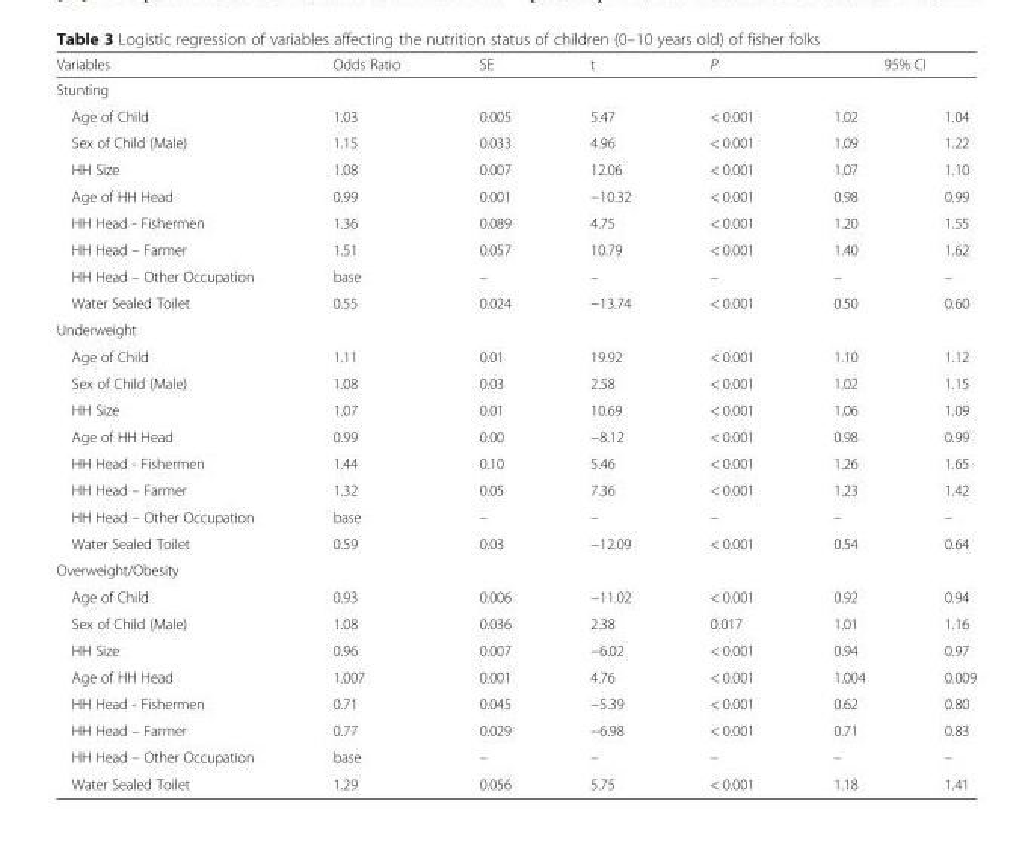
<table><thead><tr><td>Variables</td><td>Odds Ratio</td><td>SE</td><td>t</td><td>P</td><td colspan="2">95% CI</td></tr><tr><td colspan="7">Stunting</td></tr><tr><td>Age of Child</td><td>1.03</td><td>0.005</td><td>5.47</td><td>&lt; 0.001</td><td>1.02</td><td>1.04</td></tr></thead><tbody><tr><td>Sex of Child (Male)</td><td>1.15</td><td>0.033</td><td>4.96</td><td>&lt; 0.001</td><td>1.09</td><td>1.22</td></tr><tr><td>HH Size</td><td>1.08</td><td>0.007</td><td>12.06</td><td>&lt; 0.001</td><td>1.07</td><td>1.10</td></tr><tr><td>Age of HH Head</td><td>0.99</td><td>0.001</td><td>−10.32</td><td>&lt; 0.001</td><td>0.98</td><td>0.99</td></tr><tr><td>HH Head - Fishermen</td><td>1.36</td><td>0.089</td><td>4.75</td><td>&lt; 0.001</td><td>1.20</td><td>1.55</td></tr><tr><td>HH Head – Farmer</td><td>1.51</td><td>0.057</td><td>10.79</td><td>&lt; 0.001</td><td>1.40</td><td>1.62</td></tr><tr><td>HH Head – Other Occupation</td><td>base</td><td>–</td><td>–</td><td>–</td><td>–</td><td>–</td></tr><tr><td>Water Sealed Toilet</td><td>0.55</td><td>0.024</td><td>−13.74</td><td>&lt; 0.001</td><td>0.50</td><td>0.60</td></tr><tr><td colspan="7">Underweight</td></tr><tr><td>Age of Child</td><td>1.11</td><td>0.01</td><td>19.92</td><td>&lt; 0.001</td><td>1.10</td><td>1.12</td></tr><tr><td>Sex of Child (Male)</td><td>1.08</td><td>0.03</td><td>2.58</td><td>&lt; 0.001</td><td>1.02</td><td>1.15</td></tr><tr><td>HH Size</td><td>1.07</td><td>0.01</td><td>10.69</td><td>&lt; 0.001</td><td>1.06</td><td>1.09</td></tr><tr><td>Age of HH Head</td><td>0.99</td><td>0.00</td><td>−8.12</td><td>&lt; 0.001</td><td>0.98</td><td>0.99</td></tr><tr><td>HH Head - Fishermen</td><td>1.44</td><td>0.10</td><td>5.46</td><td>&lt; 0.001</td><td>1.26</td><td>1.65</td></tr><tr><td>HH Head – Farmer</td><td>1.32</td><td>0.05</td><td>7.36</td><td>&lt; 0.001</td><td>1.23</td><td>1.42</td></tr><tr><td>HH Head – Other Occupation</td><td>base</td><td>–</td><td>–</td><td>–</td><td>–</td><td>–</td></tr><tr><td>Water Sealed Toilet</td><td>0.59</td><td>0.03</td><td>−12.09</td><td>&lt; 0.001</td><td>0.54</td><td>0.64</td></tr><tr><td colspan="7">Overweight/Obesity</td></tr><tr><td>Age of Child</td><td>0.93</td><td>0.006</td><td>−11.02</td><td>&lt; 0.001</td><td>0.92</td><td>0.94</td></tr><tr><td>Sex of Child (Male)</td><td>1.08</td><td>0.036</td><td>2.38</td><td>0.017</td><td>1.01</td><td>1.16</td></tr><tr><td>HH Size</td><td>0.96</td><td>0.007</td><td>−6.02</td><td>&lt; 0.001</td><td>0.94</td><td>0.97</td></tr><tr><td>Age of HH Head</td><td>1.007</td><td>0.001</td><td>4.76</td><td>&lt; 0.001</td><td>1.004</td><td>0.009</td></tr><tr><td>HH Head - Fishermen</td><td>0.71</td><td>0.045</td><td>−5.39</td><td>&lt; 0.001</td><td>0.62</td><td>0.80</td></tr><tr><td>HH Head – Farmer</td><td>0.77</td><td>0.029</td><td>−6.98</td><td>&lt; 0.001</td><td>0.71</td><td>0.83</td></tr><tr><td>HH Head – Other Occupation</td><td>base</td><td>–</td><td>–</td><td>–</td><td>–</td><td>–</td></tr><tr><td>Water Sealed Toilet</td><td>1.29</td><td>0.056</td><td>5.75</td><td>&lt; 0.001</td><td>1.18</td><td>1.41</td></tr></tbody></table>